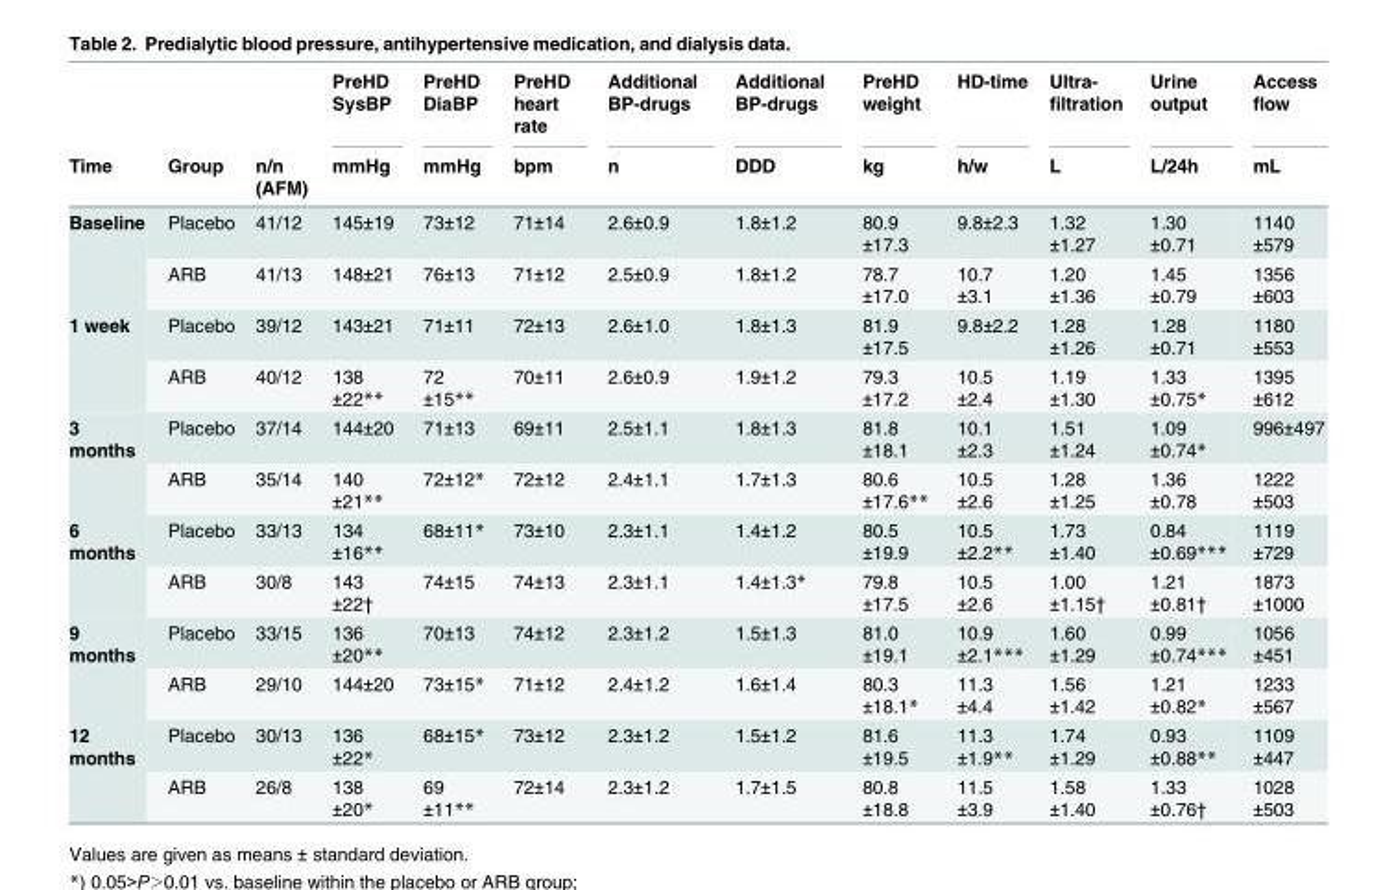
<table><thead><tr><td rowspan="2">Time</td><td rowspan="2">Group</td><td rowspan="2">n/n (AFM)</td><td rowspan="2">PreHD SysBP mmHg</td><td rowspan="2">PreHD DiaBP mmHg</td><td rowspan="2">PreHD heart rate bpm</td><td rowspan="2">Additional BP-drugs n</td><td rowspan="2">Additional BP-drugs DDD</td><td rowspan="2">PreHD weight kg</td><td rowspan="2">HD-time h/w</td><td rowspan="2">Ultra- filtration L</td><td rowspan="2">Urine output L/24h</td><td rowspan="2">Access flow mL</td></tr><tr></tr></thead><tbody><tr><td rowspan="2">Baseline</td><td>Placebo</td><td>41/12</td><td>145±19</td><td>73±12</td><td>71±14</td><td>2.6±0.9</td><td>1.8±1.2</td><td>80.9 ±17.3</td><td>9.8±2.3</td><td>1.32 ±1.27</td><td>1.30 ±0.71</td><td>1140 ±579</td></tr><tr><td>ARB</td><td>41/13</td><td>148±21</td><td>76±13</td><td>71±12</td><td>2.5±0.9</td><td>1.8±1.2</td><td>78.7 ±17.0</td><td>10.7 ±3.1</td><td>1.20 ±1.36</td><td>1.45 ±0.79</td><td>1356 ±603</td></tr><tr><td rowspan="2">1 week</td><td>Placebo</td><td>39/12</td><td>143±21</td><td>71±11</td><td>72±13</td><td>2.6±1.0</td><td>1.8±1.3</td><td>81.9 ±17.5</td><td>9.8±2.2</td><td>1.28 ±1.26</td><td>1.28 ±0.71</td><td>1180 ±553</td></tr><tr><td>ARB</td><td>40/12</td><td>138 ±22**</td><td>72 ±15**</td><td>70±11</td><td>2.6±0.9</td><td>1.9±1.2</td><td>79.3 ±17.2</td><td>10.5 ±2.4</td><td>1.19 ±1.30</td><td>1.33 ±0.75*</td><td>1395 ±612</td></tr><tr><td rowspan="2">3 months</td><td>Placebo</td><td>37/14</td><td>144±20</td><td>71±13</td><td>69±11</td><td>2.5±1.1</td><td>1.8±1.3</td><td>81.8 ±18.1</td><td>10.1 ±2.3</td><td>1.51 ±1.24</td><td>1.09 ±0.74*</td><td>996±497</td></tr><tr><td>ARB</td><td>35/14</td><td>140 ±21**</td><td>72±12*</td><td>72±12</td><td>2.4±1.1</td><td>1.7±1.3</td><td>80.6 ±17.6**</td><td>10.5 ±2.6</td><td>1.28 ±1.25</td><td>1.36 ±0.78</td><td>1222 ±503</td></tr><tr><td rowspan="2">6 months</td><td>Placebo</td><td>33/13</td><td>134 ±16**</td><td>68±11*</td><td>73±10</td><td>2.3±1.1</td><td>1.4±1.2</td><td>80.5 ±19.9</td><td>10.5 ±2.2**</td><td>1.73 ±1.40</td><td>0.84 ±0.69***</td><td>1119 ±729</td></tr><tr><td>ARB</td><td>30/8</td><td>143 ±22†</td><td>74±15</td><td>74±13</td><td>2.3±1.1</td><td>1.4±1.3*</td><td>79.8 ±17.5</td><td>10.5 ±2.6</td><td>1.00 ±1.15†</td><td>1.21 ±0.81†</td><td>1873 ±1000</td></tr><tr><td rowspan="2">9 months</td><td>Placebo</td><td>33/15</td><td>136 ±20**</td><td>70±13</td><td>74±12</td><td>2.3±1.2</td><td>1.5±1.3</td><td>81.0 ±19.1</td><td>10.9 ±2.1***</td><td>1.60 ±1.29</td><td>0.99 ±0.74***</td><td>1056 ±451</td></tr><tr><td>ARB</td><td>29/10</td><td>144±20</td><td>73±15*</td><td>71±12</td><td>2.4±1.2</td><td>1.6±1.4</td><td>80.3 ±18.1*</td><td>11.3 ±4.4</td><td>1.56 ±1.42</td><td>1.21 ±0.82*</td><td>1233 ±567</td></tr><tr><td rowspan="2">12 months</td><td>Placebo</td><td>30/13</td><td>136 ±22*</td><td>68±15*</td><td>73±12</td><td>2.3±1.2</td><td>1.5±1.2</td><td>81.6 ±19.5</td><td>11.3 ±1.9**</td><td>1.74 ±1.29</td><td>0.93 ±0.88**</td><td>1109 ±447</td></tr><tr><td>ARB</td><td>26/8</td><td>138 ±20*</td><td>69 ±11**</td><td>72±14</td><td>2.3±1.2</td><td>1.7±1.5</td><td>80.8 ±18.8</td><td>11.5 ±3.9</td><td>1.58 ±1.40</td><td>1.33 ±0.76†</td><td>1028 ±503</td></tr></tbody></table>